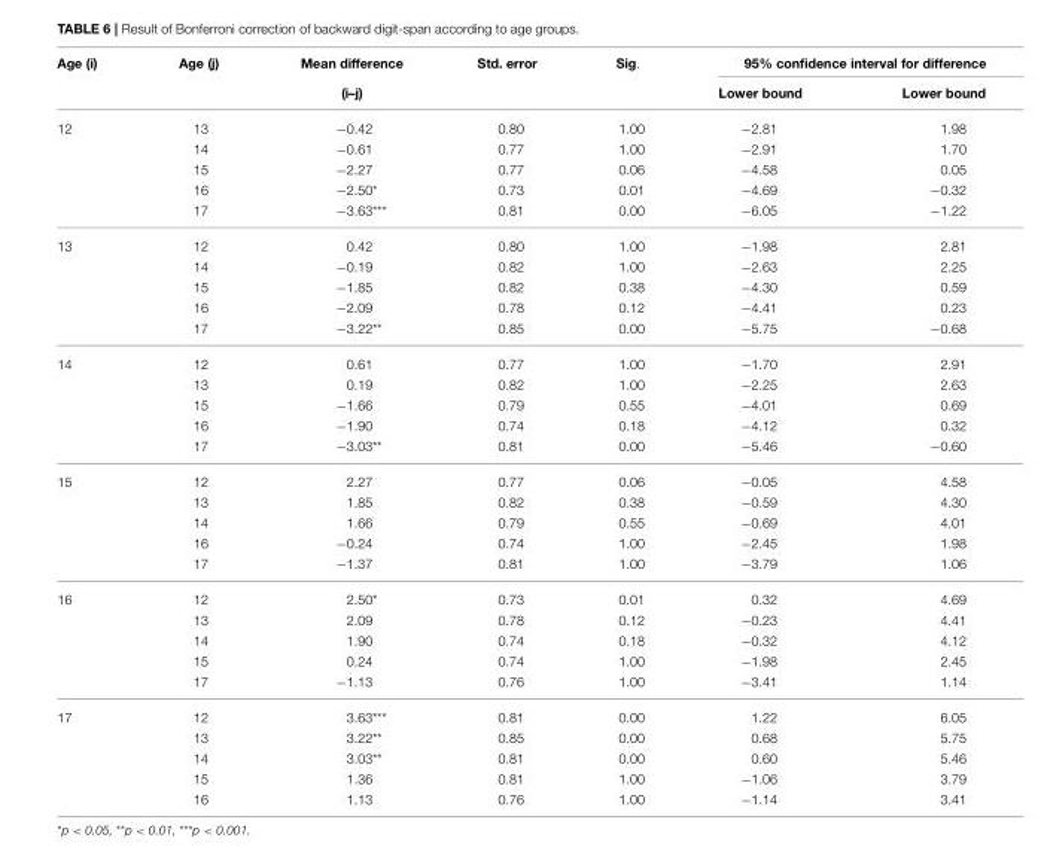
<table><thead><tr><td rowspan="2">Age (i)</td><td rowspan="2">Age (j)</td><td rowspan="2">Mean difference (i–j)</td><td rowspan="2">Std. error</td><td rowspan="2">Sig.</td><td colspan="2">95% confidence interval for difference</td></tr><tr><td>Lower bound</td><td>Lower bound</td></tr></thead><tbody><tr><td rowspan="5">12</td><td>13</td><td>−0.42</td><td>0.80</td><td>1.00</td><td>−2.81</td><td>1.98</td></tr><tr><td>14</td><td>−0.61</td><td>0.77</td><td>1.00</td><td>−2.91</td><td>1.70</td></tr><tr><td>15</td><td>−2.27</td><td>0.77</td><td>0.06</td><td>−4.58</td><td>0.05</td></tr><tr><td>16</td><td>−2.50*</td><td>0.73</td><td>0.01</td><td>−4.69</td><td>−0.32</td></tr><tr><td>17</td><td>−3.63***</td><td>0.81</td><td>0.00</td><td>−6.05</td><td>−1.22</td></tr><tr><td rowspan="5">13</td><td>12</td><td>0.42</td><td>0.80</td><td>1.00</td><td>−1.98</td><td>2.81</td></tr><tr><td>14</td><td>−0.19</td><td>0.82</td><td>1.00</td><td>−2.63</td><td>2.25</td></tr><tr><td>15</td><td>−1.85</td><td>0.82</td><td>0.38</td><td>−4.30</td><td>0.59</td></tr><tr><td>16</td><td>−2.09</td><td>0.78</td><td>0.12</td><td>−4.41</td><td>0.23</td></tr><tr><td>17</td><td>−3.22**</td><td>0.85</td><td>0.00</td><td>−5.75</td><td>−0.68</td></tr><tr><td rowspan="5">14</td><td>12</td><td>0.61</td><td>0.77</td><td>1.00</td><td>−1.70</td><td>2.91</td></tr><tr><td>13</td><td>0.19</td><td>0.82</td><td>1.00</td><td>−2.25</td><td>2.63</td></tr><tr><td>15</td><td>−1.66</td><td>0.79</td><td>0.55</td><td>−4.01</td><td>0.69</td></tr><tr><td>16</td><td>−1.90</td><td>0.74</td><td>0.18</td><td>−4.12</td><td>0.32</td></tr><tr><td>17</td><td>−3.03**</td><td>0.81</td><td>0.00</td><td>−5.46</td><td>−0.60</td></tr><tr><td rowspan="5">15</td><td>12</td><td>2.27</td><td>0.77</td><td>0.06</td><td>−0.05</td><td>4.58</td></tr><tr><td>13</td><td>1.85</td><td>0.82</td><td>0.38</td><td>−0.59</td><td>4.30</td></tr><tr><td>14</td><td>1.66</td><td>0.79</td><td>0.55</td><td>−0.69</td><td>4.01</td></tr><tr><td>16</td><td>−0.24</td><td>0.74</td><td>1.00</td><td>−2.45</td><td>1.98</td></tr><tr><td>17</td><td>−1.37</td><td>0.81</td><td>1.00</td><td>−3.79</td><td>1.06</td></tr><tr><td rowspan="5">16</td><td>12</td><td>2.50*</td><td>0.73</td><td>0.01</td><td>0.32</td><td>4.69</td></tr><tr><td>13</td><td>2.09</td><td>0.78</td><td>0.12</td><td>−0.23</td><td>4.41</td></tr><tr><td>14</td><td>1.90</td><td>0.74</td><td>0.18</td><td>−0.32</td><td>4.12</td></tr><tr><td>15</td><td>0.24</td><td>0.74</td><td>1.00</td><td>−1.98</td><td>2.45</td></tr><tr><td>17</td><td>−1.13</td><td>0.76</td><td>1.00</td><td>−3.41</td><td>1.14</td></tr><tr><td rowspan="5">17</td><td>12</td><td>3.63***</td><td>0.81</td><td>0.00</td><td>1.22</td><td>6.05</td></tr><tr><td>13</td><td>3.22**</td><td>0.85</td><td>0.00</td><td>0.68</td><td>5.75</td></tr><tr><td>14</td><td>3.03**</td><td>0.81</td><td>0.00</td><td>0.60</td><td>5.46</td></tr><tr><td>15</td><td>1.36</td><td>0.81</td><td>1.00</td><td>−1.06</td><td>3.79</td></tr><tr><td>16</td><td>1.13</td><td>0.76</td><td>1.00</td><td>−1.14</td><td>3.41</td></tr></tbody></table>